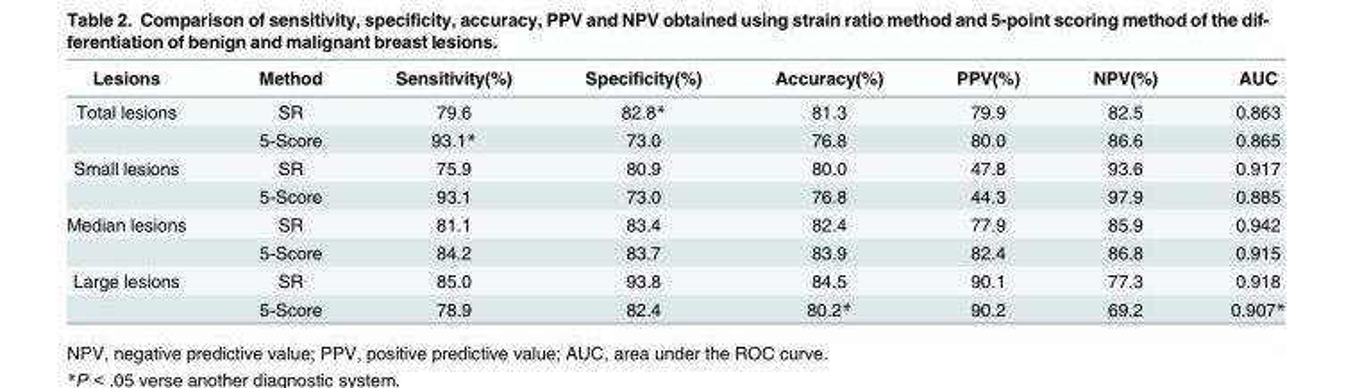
<table><thead><tr><td>Lesions</td><td>Method</td><td>Sensitivity(%)</td><td>Specificity(%)</td><td>Accuracy(%)</td><td>PPV(%)</td><td>NPV(%)</td><td>AUC</td></tr></thead><tbody><tr><td rowspan="2">Total lesions</td><td>SR</td><td>79.6</td><td>82.8*</td><td>81.3</td><td>79.9</td><td>82.5</td><td>0.863</td></tr><tr><td>5-Score</td><td>93.1*</td><td>73.0</td><td>76.8</td><td>80.0</td><td>86.6</td><td>0.865</td></tr><tr><td rowspan="2">Small lesions</td><td>SR</td><td>75.9</td><td>80.9</td><td>80.0</td><td>47.8</td><td>93.6</td><td>0.917</td></tr><tr><td>5-Score</td><td>93.1</td><td>73.0</td><td>76.8</td><td>44.3</td><td>97.9</td><td>0.885</td></tr><tr><td rowspan="2">Median lesions</td><td>SR</td><td>81.1</td><td>83.4</td><td>82.4</td><td>77.9</td><td>85.9</td><td>0.942</td></tr><tr><td>5-Score</td><td>84.2</td><td>83.7</td><td>83.9</td><td>82.4</td><td>86.8</td><td>0.915</td></tr><tr><td rowspan="2">Large lesions</td><td>SR</td><td>85.0</td><td>93.8</td><td>84.5</td><td>90.1</td><td>77.3</td><td>0.918</td></tr><tr><td>5-Score</td><td>78.9</td><td>82.4</td><td>80.2*</td><td>90.2</td><td>69.2</td><td>0.907*</td></tr></tbody></table>